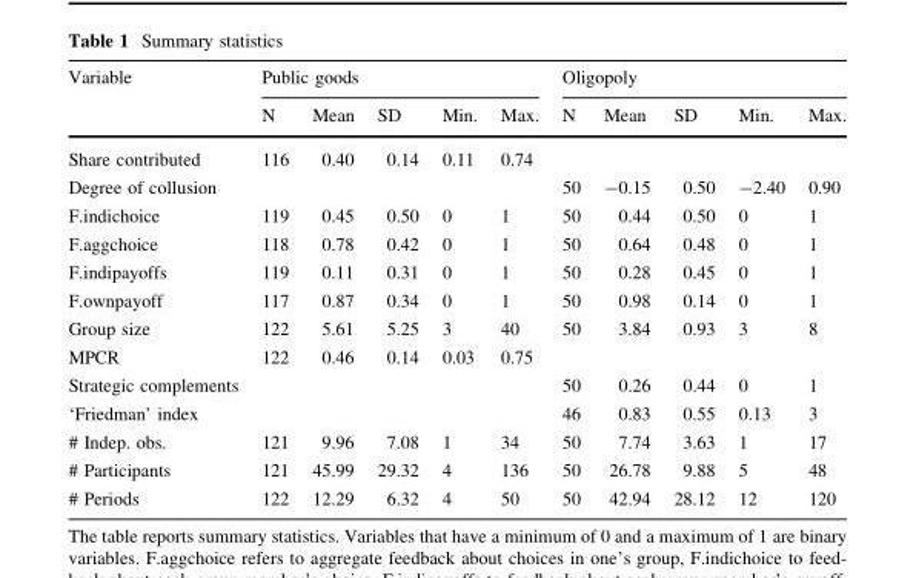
<table><thead><tr><td rowspan="2">Variable</td><td colspan="5">Public goods</td><td colspan="5">Oligopoly</td></tr><tr><td>N</td><td>Mean</td><td>SD</td><td>Min.</td><td>Max.</td><td>N</td><td>Mean</td><td>SD</td><td>Min.</td><td>Max.</td></tr></thead><tbody><tr><td>Share contributed</td><td>116</td><td>0.40</td><td>0.14</td><td>0.11</td><td>0.74</td><td></td><td></td><td></td><td></td><td></td></tr><tr><td>Degree of collusion</td><td></td><td></td><td></td><td></td><td></td><td>50</td><td>-0.15</td><td>0.50</td><td>-2.40</td><td>0.90</td></tr><tr><td>F.indichoice</td><td>119</td><td>0.45</td><td>0.50</td><td>0</td><td>1</td><td>50</td><td>0.44</td><td>0.50</td><td>0</td><td>1</td></tr><tr><td>F.aggchoice</td><td>118</td><td>0.78</td><td>0.42</td><td>0</td><td>1</td><td>50</td><td>0.64</td><td>0.48</td><td>0</td><td>1</td></tr><tr><td>F.indipayoffs</td><td>119</td><td>0.11</td><td>0.31</td><td>0</td><td>1</td><td>50</td><td>0.28</td><td>0.45</td><td>0</td><td>1</td></tr><tr><td>F.ownpayoff</td><td>117</td><td>0.87</td><td>0.34</td><td>0</td><td>1</td><td>50</td><td>0.98</td><td>0.14</td><td>0</td><td>1</td></tr><tr><td>Group size</td><td>122</td><td>5.61</td><td>5.25</td><td>3</td><td>40</td><td>50</td><td>3.84</td><td>0.93</td><td>3</td><td>8</td></tr><tr><td>MPCR</td><td>122</td><td>0.46</td><td>0.14</td><td>0.03</td><td>0.75</td><td></td><td></td><td></td><td></td><td></td></tr><tr><td>Strategic complements</td><td></td><td></td><td></td><td></td><td></td><td>50</td><td>0.26</td><td>0.44</td><td>0</td><td>1</td></tr><tr><td>‘Friedman’ index</td><td></td><td></td><td></td><td></td><td></td><td>46</td><td>0.83</td><td>0.55</td><td>0.13</td><td>3</td></tr><tr><td># Indep. obs.</td><td>121</td><td>9.96</td><td>7.08</td><td>1</td><td>34</td><td>50</td><td>7.74</td><td>3.63</td><td>1</td><td>17</td></tr><tr><td># Participants</td><td>121</td><td>45.99</td><td>29.32</td><td>4</td><td>136</td><td>50</td><td>26.78</td><td>9.88</td><td>5</td><td>48</td></tr><tr><td># Periods</td><td>122</td><td>12.29</td><td>6.32</td><td>4</td><td>50</td><td>50</td><td>42.94</td><td>28.12</td><td>12</td><td>120</td></tr></tbody></table>